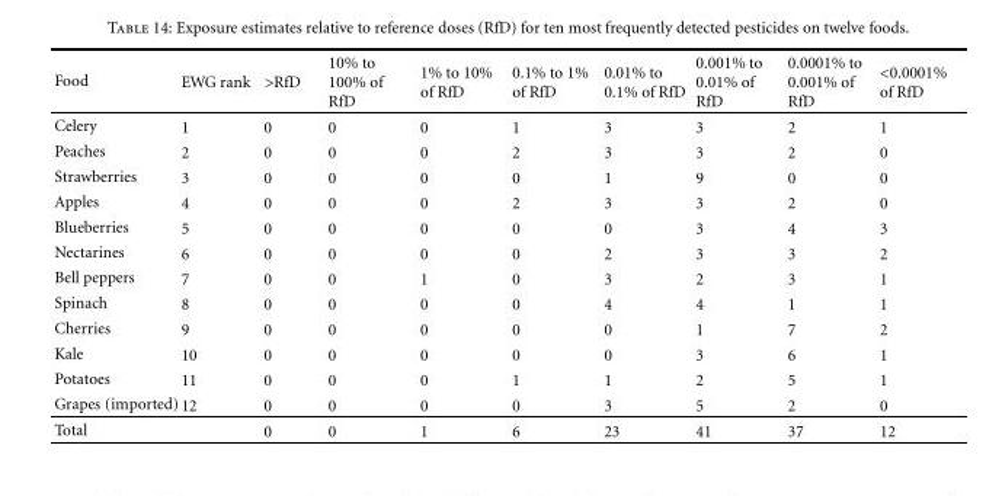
<table><thead><tr><td>Food</td><td>EWG rank</td><td>&gt;RfD</td><td>10% to 100% of RfD</td><td>1% to 10% of RfD</td><td>0.1% to 1% of RfD</td><td>0.01% to 0.1% of RfD</td><td>0.001% to 0.01% of RfD</td><td>0.0001% to 0.001% of RfD</td><td>&lt;0.0001% of RfD</td></tr></thead><tbody><tr><td>Celery</td><td>1</td><td>0</td><td>0</td><td>0</td><td>1</td><td>3</td><td>3</td><td>2</td><td>1</td></tr><tr><td>Peaches</td><td>2</td><td>0</td><td>0</td><td>0</td><td>2</td><td>3</td><td>3</td><td>2</td><td>0</td></tr><tr><td>Strawberries</td><td>3</td><td>0</td><td>0</td><td>0</td><td>0</td><td>1</td><td>9</td><td>0</td><td>0</td></tr><tr><td>Apples</td><td>4</td><td>0</td><td>0</td><td>0</td><td>2</td><td>3</td><td>3</td><td>2</td><td>0</td></tr><tr><td>Blueberries</td><td>5</td><td>0</td><td>0</td><td>0</td><td>0</td><td>0</td><td>3</td><td>4</td><td>3</td></tr><tr><td>Nectarines</td><td>6</td><td>0</td><td>0</td><td>0</td><td>0</td><td>2</td><td>3</td><td>3</td><td>2</td></tr><tr><td>Bell peppers</td><td>7</td><td>0</td><td>0</td><td>1</td><td>0</td><td>3</td><td>2</td><td>3</td><td>1</td></tr><tr><td>Spinach</td><td>8</td><td>0</td><td>0</td><td>0</td><td>0</td><td>4</td><td>4</td><td>1</td><td>1</td></tr><tr><td>Cherries</td><td>9</td><td>0</td><td>0</td><td>0</td><td>0</td><td>0</td><td>1</td><td>7</td><td>2</td></tr><tr><td>Kale</td><td>10</td><td>0</td><td>0</td><td>0</td><td>0</td><td>0</td><td>3</td><td>6</td><td>1</td></tr><tr><td>Potatoes</td><td>11</td><td>0</td><td>0</td><td>0</td><td>1</td><td>1</td><td>2</td><td>5</td><td>1</td></tr><tr><td>Grapes (imported)</td><td>12</td><td>0</td><td>0</td><td>0</td><td>0</td><td>3</td><td>5</td><td>2</td><td>0</td></tr><tr><td>Total</td><td></td><td>0</td><td>0</td><td>1</td><td>6</td><td>23</td><td>41</td><td>37</td><td>12</td></tr></tbody></table>